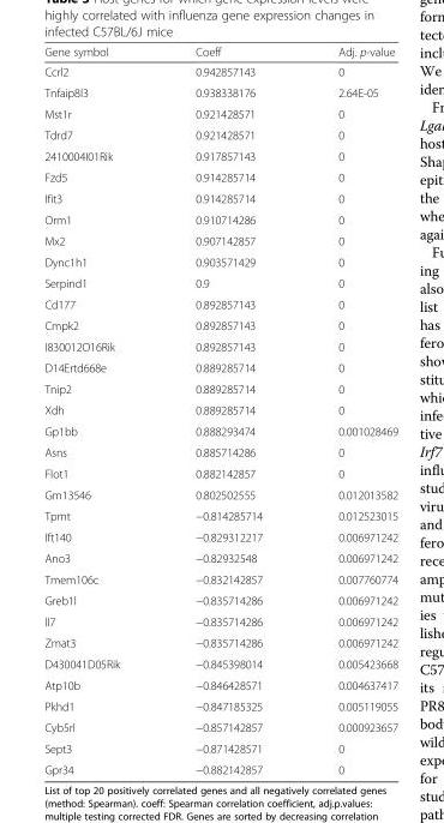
<table><thead><tr><td>Gene symbol</td><td>Coeff</td><td>Adj. p-value</td></tr></thead><tbody><tr><td>Ccrl2</td><td>0.942857143</td><td>0</td></tr><tr><td>Tnfaip8l3</td><td>0.938338176</td><td>2.64E-05</td></tr><tr><td>Mst1r</td><td>0.921428571</td><td>0</td></tr><tr><td>Tdrd7</td><td>0.921428571</td><td>0</td></tr><tr><td>2410004I01Rik</td><td>0.917857143</td><td>0</td></tr><tr><td>Fzd5</td><td>0.914285714</td><td>0</td></tr><tr><td>Ifit3</td><td>0.914285714</td><td>0</td></tr><tr><td>Orm1</td><td>0.910714286</td><td>0</td></tr><tr><td>Mx2</td><td>0.907142857</td><td>0</td></tr><tr><td>Dync1h1</td><td>0.903571429</td><td>0</td></tr><tr><td>Serpind1</td><td>0.9</td><td>0</td></tr><tr><td>Cd177</td><td>0.892857143</td><td>0</td></tr><tr><td>Cmpk2</td><td>0.892857143</td><td>0</td></tr><tr><td>I830012O16Rik</td><td>0.892857143</td><td>0</td></tr><tr><td>D14Ertd668e</td><td>0.889285714</td><td>0</td></tr><tr><td>Tnip2</td><td>0.889285714</td><td>0</td></tr><tr><td>Xdh</td><td>0.889285714</td><td>0</td></tr><tr><td>Gp1bb</td><td>0.888293474</td><td>0.001028469</td></tr><tr><td>Asns</td><td>0.885714286</td><td>0</td></tr><tr><td>Flot1</td><td>0.882142857</td><td>0</td></tr><tr><td>Gm13546</td><td>0.802502555</td><td>0.012013582</td></tr><tr><td>Tpmt</td><td>−0.814285714</td><td>0.012523015</td></tr><tr><td>Ift140</td><td>−0.829312217</td><td>0.006971242</td></tr><tr><td>Ano3</td><td>−0.82932548</td><td>0.006971242</td></tr><tr><td>Tmem106c</td><td>−0.832142857</td><td>0.007760774</td></tr><tr><td>Greb1l</td><td>−0.835714286</td><td>0.006971242</td></tr><tr><td>Il7</td><td>−0.835714286</td><td>0.006971242</td></tr><tr><td>Zmat3</td><td>−0.835714286</td><td>0.006971242</td></tr><tr><td>D430041D05Rik</td><td>−0.845398014</td><td>0.005423668</td></tr><tr><td>Atp10b</td><td>−0.846428571</td><td>0.004637417</td></tr><tr><td>Pkhd1</td><td>−0.847185325</td><td>0.005119055</td></tr><tr><td>Cyb5rl</td><td>−0.857142857</td><td>0.000923657</td></tr><tr><td>Sept3</td><td>−0.871428571</td><td>0</td></tr><tr><td>Gpr34</td><td>−0.882142857</td><td>0</td></tr></tbody></table>